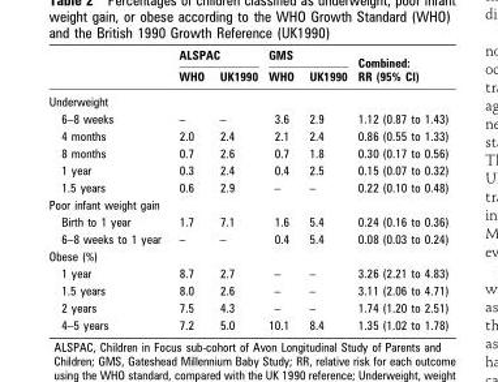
<table><thead><tr><td rowspan="2"></td><td colspan="2">ALSPAC</td><td colspan="2">GMS</td><td rowspan="2">Combined: RR (95% CI)</td></tr><tr><td>WHO</td><td>UK1990</td><td>WHO</td><td>UK1990</td></tr></thead><tbody><tr><td colspan="6">Underweight</td></tr><tr><td>6–8 weeks</td><td>–</td><td>–</td><td>3.6</td><td>2.9</td><td>1.12 (0.87 to 1.43)</td></tr><tr><td>4 months</td><td>2.0</td><td>2.4</td><td>2.1</td><td>2.4</td><td>0.86 (0.55 to 1.33)</td></tr><tr><td>8 months</td><td>0.7</td><td>2.6</td><td>0.7</td><td>1.8</td><td>0.30 (0.17 to 0.56)</td></tr><tr><td>1 year</td><td>0.3</td><td>2.4</td><td>0.4</td><td>2.5</td><td>0.15 (0.07 to 0.32)</td></tr><tr><td>1.5 years</td><td>0.6</td><td>2.9</td><td>–</td><td>–</td><td>0.22 (0.10 to 0.48)</td></tr><tr><td colspan="6">Poor infant weight gain</td></tr><tr><td>Birth to 1 year</td><td>1.7</td><td>7.1</td><td>1.6</td><td>5.4</td><td>0.24 (0.16 to 0.36)</td></tr><tr><td>6–8 weeks to 1 year</td><td>–</td><td>–</td><td>0.4</td><td>5.4</td><td>0.08 (0.03 to 0.24)</td></tr><tr><td colspan="6">Obese (%)</td></tr><tr><td>1 year</td><td>8.7</td><td>2.7</td><td>–</td><td>–</td><td>3.26 (2.21 to 4.83)</td></tr><tr><td>1.5 years</td><td>8.0</td><td>2.6</td><td>–</td><td>–</td><td>3.11 (2.06 to 4.71)</td></tr><tr><td>2 years</td><td>7.5</td><td>4.3</td><td>–</td><td>–</td><td>1.74 (1.20 to 2.51)</td></tr><tr><td>4–5 years</td><td>7.2</td><td>5.0</td><td>10.1</td><td>8.4</td><td>1.35 (1.02 to 1.78)</td></tr></tbody></table>